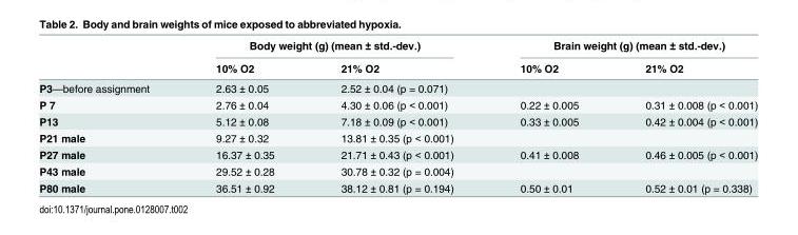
<table><thead><tr><td rowspan="2"></td><td colspan="2">Body weight (g) (mean ± std.-dev.)</td><td colspan="2">Brain weight (g) (mean ± std.-dev.)</td></tr><tr><td>10% O2</td><td>21% O2</td><td>10% O2</td><td>21% O2</td></tr></thead><tbody><tr><td>P3—before assignment</td><td>2.63 ± 0.05</td><td>2.52 ± 0.04 (p = 0.071)</td><td></td><td></td></tr><tr><td>P 7</td><td>2.76 ± 0.04</td><td>4.30 ± 0.06 (p &lt; 0.001)</td><td>0.22 ± 0.005</td><td>0.31 ± 0.008 (p &lt; 0.001)</td></tr><tr><td>P13</td><td>5.12 ± 0.08</td><td>7.18 ± 0.09 (p &lt; 0.001)</td><td>0.33 ± 0.005</td><td>0.42 ± 0.004 (p &lt; 0.001)</td></tr><tr><td>P21 male</td><td>9.27 ± 0.32</td><td>13.81 ± 0.35 (p &lt; 0.001)</td><td></td><td></td></tr><tr><td>P27 male</td><td>16.37 ± 0.35</td><td>21.71 ± 0.43 (p &lt; 0.001)</td><td>0.41 ± 0.008</td><td>0.46 ± 0.005 (p &lt; 0.001)</td></tr><tr><td>P43 male</td><td>29.52 ± 0.28</td><td>30.78 ± 0.32 (p = 0.004)</td><td></td><td></td></tr><tr><td>P80 male</td><td>36.51 ± 0.92</td><td>38.12 ± 0.81 (p = 0.194)</td><td>0.50 ± 0.01</td><td>0.52 ± 0.01 (p = 0.338)</td></tr></tbody></table>